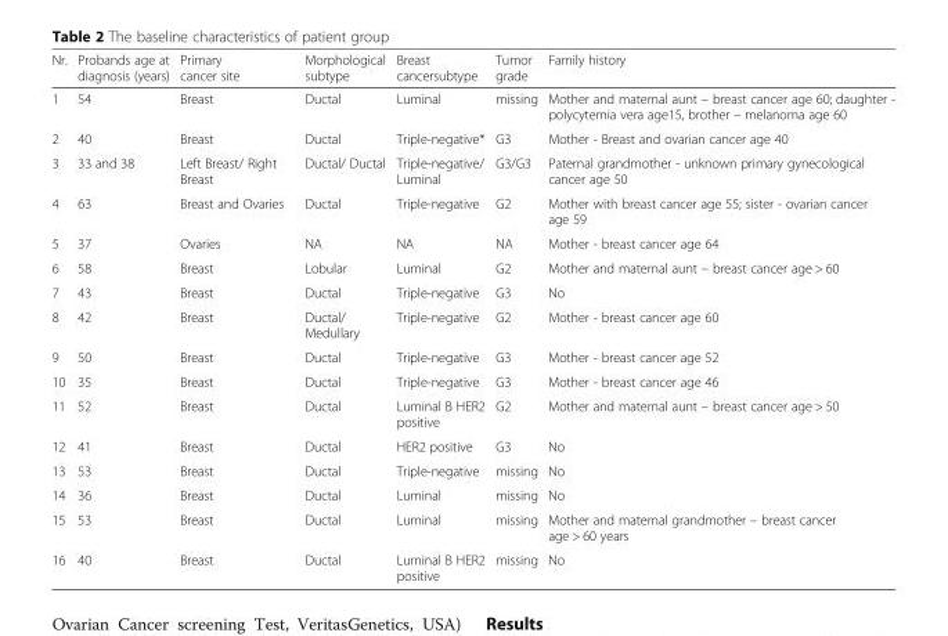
<table><thead><tr><td>Nr.</td><td>Probands age at diagnosis (years)</td><td>Primary cancer site</td><td>Morphological subtype</td><td>Breast cancersubtype</td><td>Tumor grade</td><td>Family history</td></tr></thead><tbody><tr><td>1</td><td>54</td><td>Breast</td><td>Ductal</td><td>Luminal</td><td>missing</td><td>Mother and maternal aunt – breast cancer age 60; daughter - polycytemia vera age15, brother – melanoma age 60</td></tr><tr><td>2</td><td>40</td><td>Breast</td><td>Ductal</td><td>Triple-negative*</td><td>G3</td><td>Mother - Breast and ovarian cancer age 40</td></tr><tr><td>3</td><td>33 and 38</td><td>Left Breast/ Right Breast</td><td>Ductal/ Ductal</td><td>Triple-negative/ Luminal</td><td>G3/G3</td><td>Paternal grandmother - unknown primary gynecological cancer age 50</td></tr><tr><td>4</td><td>63</td><td>Breast and Ovaries</td><td>Ductal</td><td>Triple-negative</td><td>G2</td><td>Mother with breast cancer age 55; sister - ovarian cancer age 59</td></tr><tr><td>5</td><td>37</td><td>Ovaries</td><td>NA</td><td>NA</td><td>NA</td><td>Mother - breast cancer age 64</td></tr><tr><td>6</td><td>58</td><td>Breast</td><td>Lobular</td><td>Luminal</td><td>G2</td><td>Mother and maternal aunt – breast cancer age &gt; 60</td></tr><tr><td>7</td><td>43</td><td>Breast</td><td>Ductal</td><td>Triple-negative</td><td>G3</td><td>No</td></tr><tr><td>8</td><td>42</td><td>Breast</td><td>Ductal/ Medullary</td><td>Triple-negative</td><td>G2</td><td>Mother - breast cancer age 60</td></tr><tr><td>9</td><td>50</td><td>Breast</td><td>Ductal</td><td>Triple-negative</td><td>G3</td><td>Mother - breast cancer age 52</td></tr><tr><td>10</td><td>35</td><td>Breast</td><td>Ductal</td><td>Triple-negative</td><td>G3</td><td>Mother - breast cancer age 46</td></tr><tr><td>11</td><td>52</td><td>Breast</td><td>Ductal</td><td>Luminal B HER2 positive</td><td>G2</td><td>Mother and maternal aunt – breast cancer age &gt; 50</td></tr><tr><td>12</td><td>41</td><td>Breast</td><td>Ductal</td><td>HER2 positive</td><td>G3</td><td>No</td></tr><tr><td>13</td><td>53</td><td>Breast</td><td>Ductal</td><td>Triple-negative</td><td>missing</td><td>No</td></tr><tr><td>14</td><td>36</td><td>Breast</td><td>Ductal</td><td>Luminal</td><td>missing</td><td>No</td></tr><tr><td>15</td><td>53</td><td>Breast</td><td>Ductal</td><td>Luminal</td><td>missing</td><td>Mother and maternal grandmother – breast cancer age &gt; 60 years</td></tr><tr><td>16</td><td>40</td><td>Breast</td><td>Ductal</td><td>Luminal B HER2 positive</td><td>missing</td><td>No</td></tr></tbody></table>